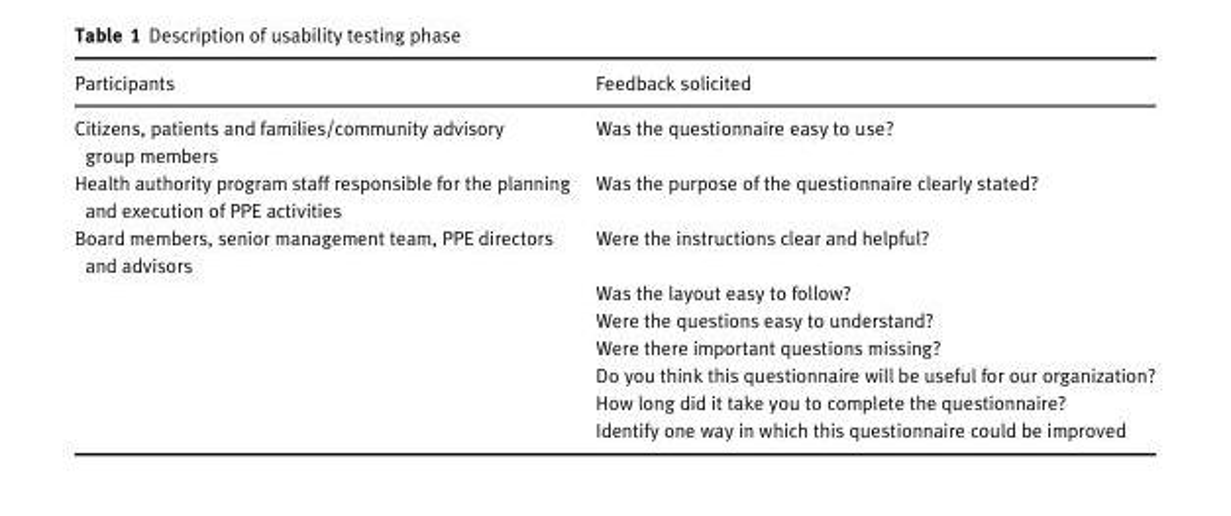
<table><thead><tr><td>Participants</td><td>Feedback solicited</td></tr></thead><tbody><tr><td>Citizens, patients and families/community advisory group members</td><td>Was the questionnaire easy to use?</td></tr><tr><td>Health authority program staff responsible for the planning and execution of PPE activities</td><td>Was the purpose of the questionnaire clearly stated?</td></tr><tr><td rowspan="7">Board members, senior management team, PPE directors and advisors</td><td>Were the instructions clear and helpful?</td></tr><tr><td>Was the layout easy to follow?</td></tr><tr><td>Were the questions easy to understand?</td></tr><tr><td>Were there important questions missing?</td></tr><tr><td>Do you think this questionnaire will be useful for our organization?</td></tr><tr><td>How long did it take you to complete the questionnaire?</td></tr><tr><td>Identify one way in which this questionnaire could be improved</td></tr></tbody></table>